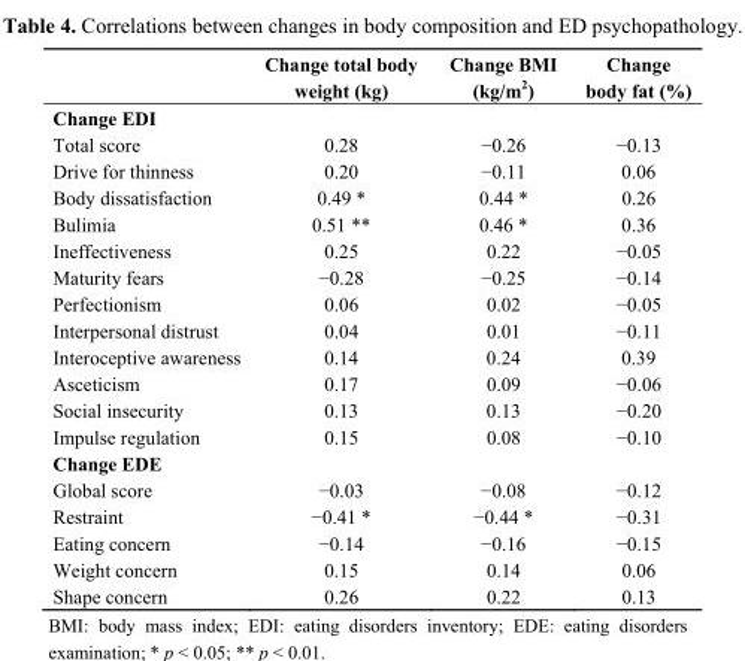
<table><thead><tr><td></td><td>Change total body weight (kg)</td><td>Change BMI (kg/m<sup>2</sup>)</td><td>Change body fat (%)</td></tr></thead><tbody><tr><td colspan="4">Change EDI</td></tr><tr><td>Total score</td><td>0.28</td><td>−0.26</td><td>−0.13</td></tr><tr><td>Drive for thinness</td><td>0.20</td><td>−0.11</td><td>0.06</td></tr><tr><td>Body dissatisfaction</td><td>0.49 *</td><td>0.44 *</td><td>0.26</td></tr><tr><td>Bulimia</td><td>0.51 **</td><td>0.46 *</td><td>0.36</td></tr><tr><td>Ineffectiveness</td><td>0.25</td><td>0.22</td><td>−0.05</td></tr><tr><td>Maturity fears</td><td>−0.28</td><td>−0.25</td><td>−0.14</td></tr><tr><td>Perfectionism</td><td>0.06</td><td>0.02</td><td>−0.05</td></tr><tr><td>Interpersonal distrust</td><td>0.04</td><td>0.01</td><td>−0.11</td></tr><tr><td>Interoceptive awareness</td><td>0.14</td><td>0.24</td><td>0.39</td></tr><tr><td>Asceticism</td><td>0.17</td><td>0.09</td><td>−0.06</td></tr><tr><td>Social insecurity</td><td>0.13</td><td>0.13</td><td>−0.20</td></tr><tr><td>Impulse regulation</td><td>0.15</td><td>0.08</td><td>−0.10</td></tr><tr><td colspan="4">Change EDE</td></tr><tr><td>Global score</td><td>−0.03</td><td>−0.08</td><td>−0.12</td></tr><tr><td>Restraint</td><td>−0.41 *</td><td>−0.44 *</td><td>−0.31</td></tr><tr><td>Eating concern</td><td>−0.14</td><td>−0.16</td><td>−0.15</td></tr><tr><td>Weight concern</td><td>0.15</td><td>0.14</td><td>0.06</td></tr><tr><td>Shape concern</td><td>0.26</td><td>0.22</td><td>0.13</td></tr></tbody></table>